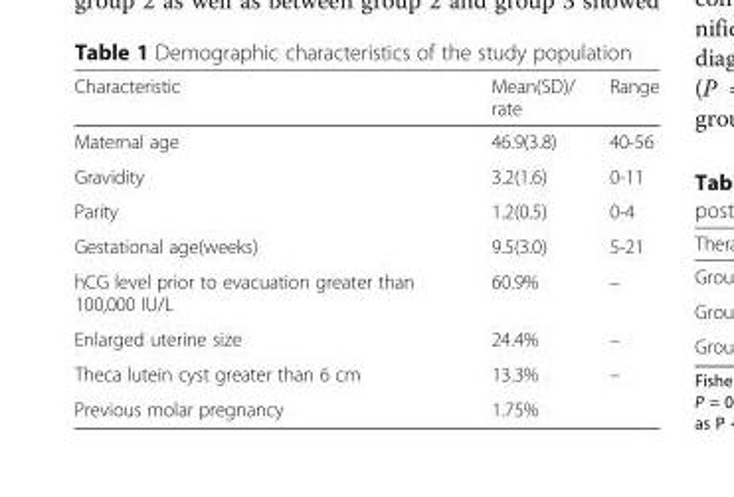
<table><thead><tr><td>Characteristic</td><td>Mean(SD)/ rate</td><td>Range</td></tr></thead><tbody><tr><td>Maternal age</td><td>46.9(3.8)</td><td>40-56</td></tr><tr><td>Gravidity</td><td>3.2(1.6)</td><td>0-11</td></tr><tr><td>Parity</td><td>1.2(0.5)</td><td>0-4</td></tr><tr><td>Gestational age(weeks)</td><td>9.5(3.0)</td><td>5-21</td></tr><tr><td>hCG level prior to evacuation greater than 100,000 IU/L</td><td>60.9%</td><td>–</td></tr><tr><td>Enlarged uterine size</td><td>24.4%</td><td>–</td></tr><tr><td>Theca lutein cyst greater than 6 cm</td><td>13.3%</td><td>–</td></tr><tr><td>Previous molar pregnancy</td><td>1.75%</td><td></td></tr></tbody></table>